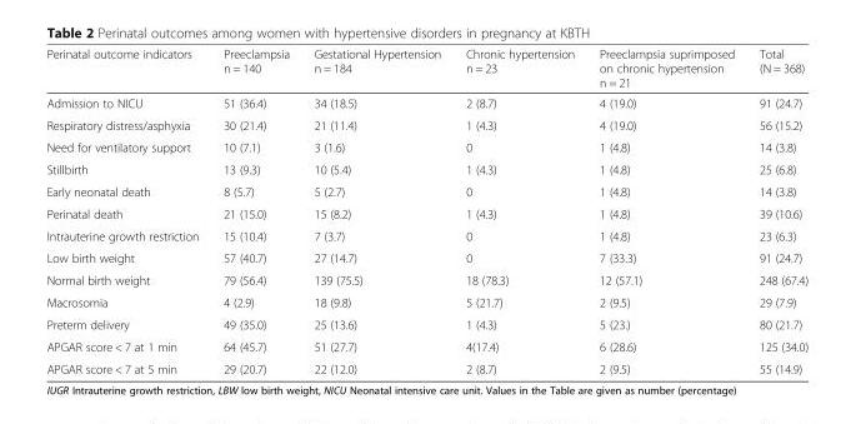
<table><thead><tr><td>Perinatal outcome indicators</td><td>Preeclampsia n = 140</td><td>Gestational Hypertension n = 184</td><td>Chronic hypertension n = 23</td><td>Preeclampsia suprimposed on chronic hypertension n = 21</td><td>Total (N = 368)</td></tr></thead><tbody><tr><td>Admission to NICU</td><td>51 (36.4)</td><td>34 (18.5)</td><td>2 (8.7)</td><td>4 (19.0)</td><td>91 (24.7)</td></tr><tr><td>Respiratory distress/asphyxia</td><td>30 (21.4)</td><td>21 (11.4)</td><td>1 (4.3)</td><td>4 (19.0)</td><td>56 (15.2)</td></tr><tr><td>Need for ventilatory support</td><td>10 (7.1)</td><td>3 (1.6)</td><td>0</td><td>1 (4.8)</td><td>14 (3.8)</td></tr><tr><td>Stillbirth</td><td>13 (9.3)</td><td>10 (5.4)</td><td>1 (4.3)</td><td>1 (4.8)</td><td>25 (6.8)</td></tr><tr><td>Early neonatal death</td><td>8 (5.7)</td><td>5 (2.7)</td><td>0</td><td>1 (4.8)</td><td>14 (3.8)</td></tr><tr><td>Perinatal death</td><td>21 (15.0)</td><td>15 (8.2)</td><td>1 (4.3)</td><td>1 (4.8)</td><td>39 (10.6)</td></tr><tr><td>Intrauterine growth restriction</td><td>15 (10.4)</td><td>7 (3.7)</td><td>0</td><td>1 (4.8)</td><td>23 (6.3)</td></tr><tr><td>Low birth weight</td><td>57 (40.7)</td><td>27 (14.7)</td><td>0</td><td>7 (33.3)</td><td>91 (24.7)</td></tr><tr><td>Normal birth weight</td><td>79 (56.4)</td><td>139 (75.5)</td><td>18 (78.3)</td><td>12 (57.1)</td><td>248 (67.4)</td></tr><tr><td>Macrosomia</td><td>4 (2.9)</td><td>18 (9.8)</td><td>5 (21.7)</td><td>2 (9.5)</td><td>29 (7.9)</td></tr><tr><td>Preterm delivery</td><td>49 (35.0)</td><td>25 (13.6)</td><td>1 (4.3)</td><td>5 (23.)</td><td>80 (21.7)</td></tr><tr><td>APGAR score &lt; 7 at 1 min</td><td>64 (45.7)</td><td>51 (27.7)</td><td>4(17.4)</td><td>6 (28.6)</td><td>125 (34.0)</td></tr><tr><td>APGAR score &lt; 7 at 5 min</td><td>29 (20.7)</td><td>22 (12.0)</td><td>2 (8.7)</td><td>2 (9.5)</td><td>55 (14.9)</td></tr></tbody></table>